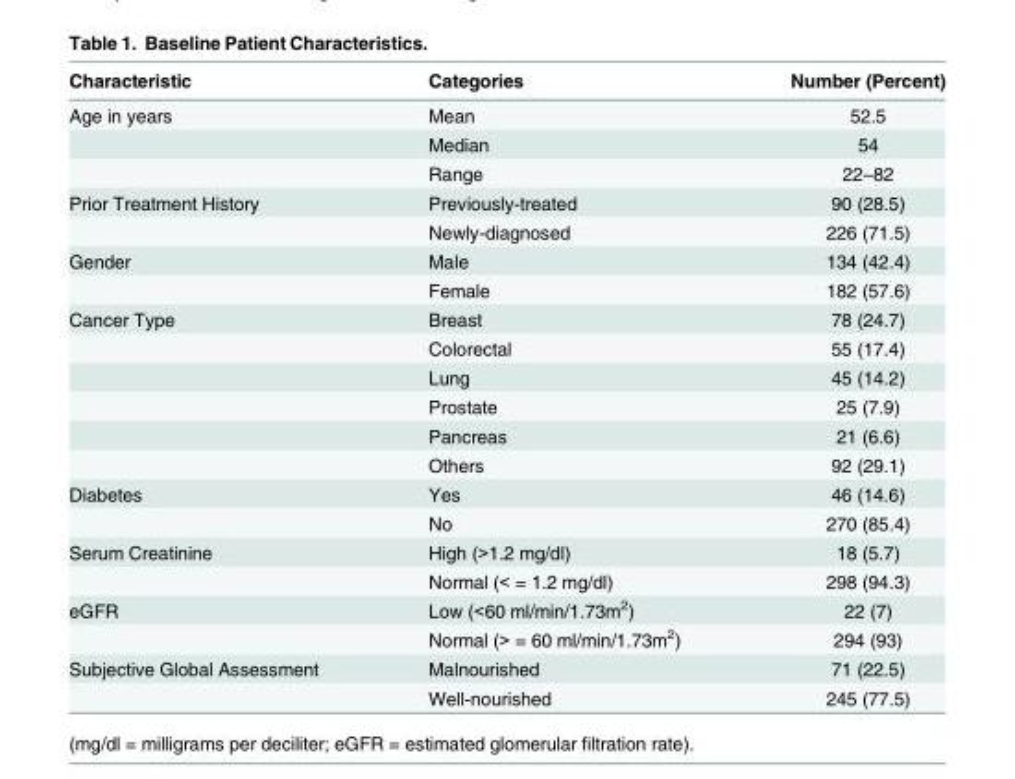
<table><thead><tr><td>Characteristic</td><td>Categories</td><td>Number (Percent)</td></tr></thead><tbody><tr><td rowspan="3">Age in years</td><td>Mean</td><td>52.5</td></tr><tr><td>Median</td><td>54</td></tr><tr><td>Range</td><td>22–82</td></tr><tr><td rowspan="2">Prior Treatment History</td><td>Previously-treated</td><td>90 (28.5)</td></tr><tr><td>Newly-diagnosed</td><td>226 (71.5)</td></tr><tr><td rowspan="2">Gender</td><td>Male</td><td>134 (42.4)</td></tr><tr><td>Female</td><td>182 (57.6)</td></tr><tr><td rowspan="6">Cancer Type</td><td>Breast</td><td>78 (24.7)</td></tr><tr><td>Colorectal</td><td>55 (17.4)</td></tr><tr><td>Lung</td><td>45 (14.2)</td></tr><tr><td>Prostate</td><td>25 (7.9)</td></tr><tr><td>Pancreas</td><td>21 (6.6)</td></tr><tr><td>Others</td><td>92 (29.1)</td></tr><tr><td rowspan="2">Diabetes</td><td>Yes</td><td>46 (14.6)</td></tr><tr><td>No</td><td>270 (85.4)</td></tr><tr><td rowspan="2">Serum Creatinine</td><td>High (&gt;1.2 mg/dl)</td><td>18 (5.7)</td></tr><tr><td>Normal (&lt; = 1.2 mg/dl)</td><td>298 (94.3)</td></tr><tr><td rowspan="2">eGFR</td><td>Low (&lt;60 ml/min/1.73m<sup>2</sup>)</td><td>22 (7)</td></tr><tr><td>Normal (&gt; = 60 ml/min/1.73m<sup>2</sup>)</td><td>294 (93)</td></tr><tr><td rowspan="2">Subjective Global Assessment</td><td>Malnourished</td><td>71 (22.5)</td></tr><tr><td>Well-nourished</td><td>245 (77.5)</td></tr></tbody></table>